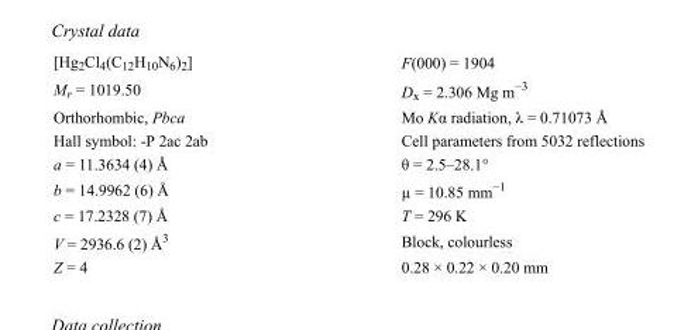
<table><tbody><tr><td>[Hg<sub>2</sub>Cl<sub>4</sub>(C<sub>12</sub>H<sub>10</sub>N<sub>6</sub>)<sub>2</sub>]</td><td>F(000) = 1904</td></tr><tr><td>M<sub>r</sub> = 1019.50</td><td>D<sub>x</sub> = 2.306 Mg m<sup>−3</sup></td></tr><tr><td>Orthorhombic, Pbca</td><td>Mo Kα radiation, λ = 0.71073 Å</td></tr><tr><td>Hall symbol: -P 2ac 2ab</td><td>Cell parameters from 5032 reflections</td></tr><tr><td>a = 11.3634 (4) Å</td><td>θ = 2.5–28.1°</td></tr><tr><td>b = 14.9962 (6) Å</td><td>µ = 10.85 mm<sup>−1</sup></td></tr><tr><td>c = 17.2328 (7) Å</td><td>T = 296 K</td></tr><tr><td>V = 2936.6 (2) Å<sup>3</sup></td><td>Block, colourless</td></tr><tr><td>Z = 4</td><td>0.28 × 0.22 × 0.20 mm</td></tr></tbody></table>